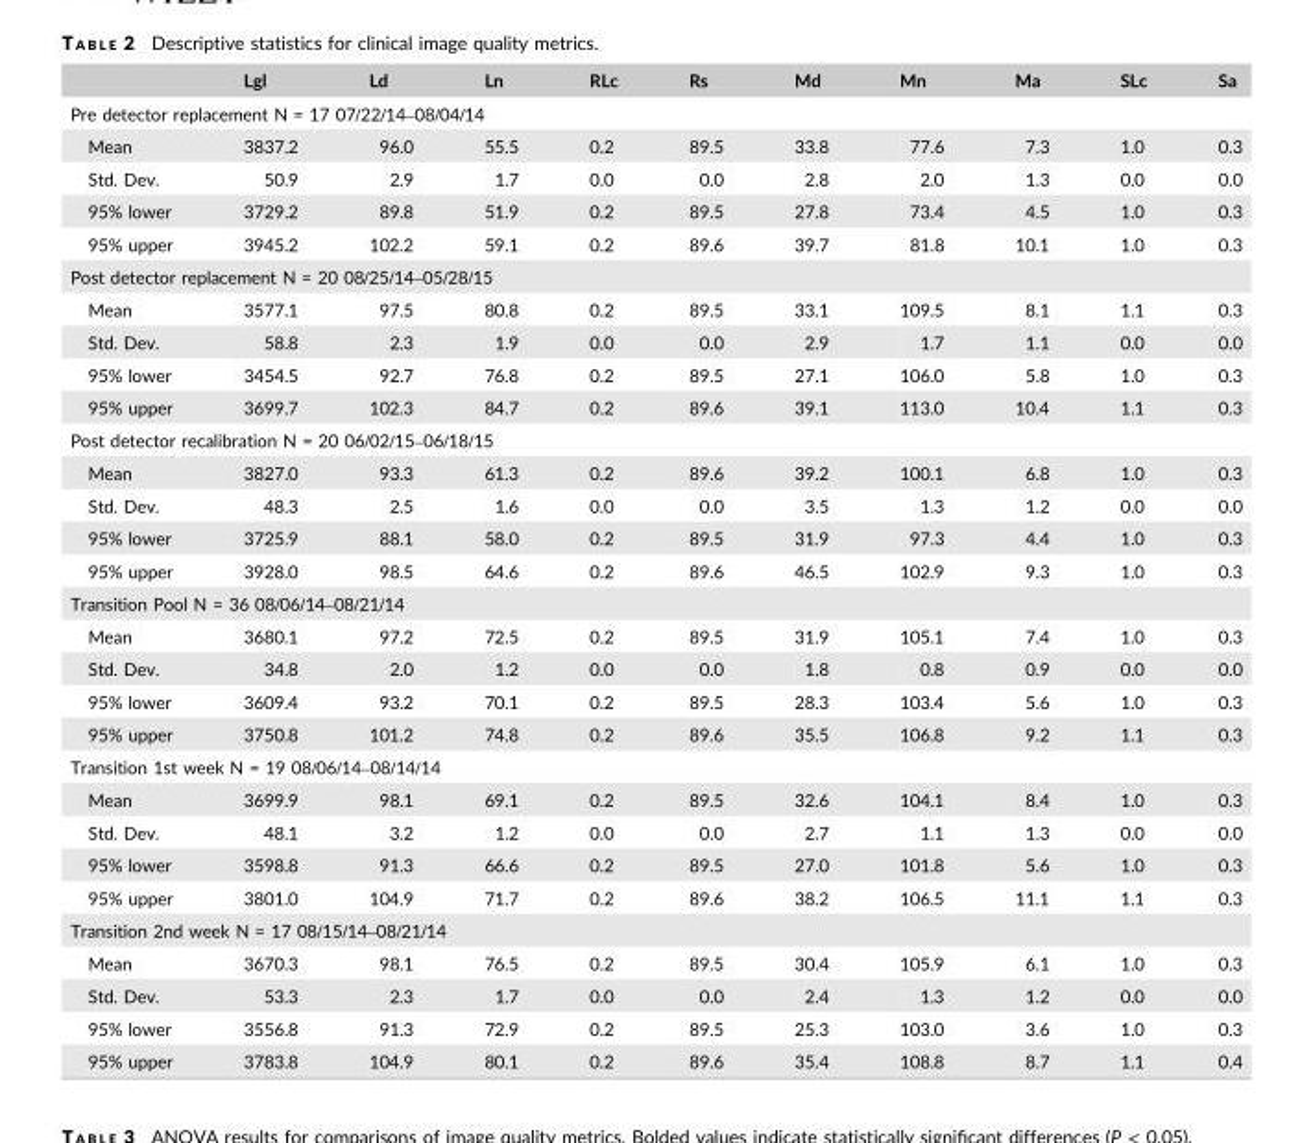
<table><thead><tr><td></td><td>Lgl</td><td>Ld</td><td>Ln</td><td>RLc</td><td>Rs</td><td>Md</td><td>Mn</td><td>Ma</td><td>SLc</td><td>Sa</td></tr></thead><tbody><tr><td colspan="11">Pre detector replacement N = 17 07/22/14–08/04/14</td></tr><tr><td>Mean</td><td>3837.2</td><td>96.0</td><td>55.5</td><td>0.2</td><td>89.5</td><td>33.8</td><td>77.6</td><td>7.3</td><td>1.0</td><td>0.3</td></tr><tr><td>Std. Dev.</td><td>50.9</td><td>2.9</td><td>1.7</td><td>0.0</td><td>0.0</td><td>2.8</td><td>2.0</td><td>1.3</td><td>0.0</td><td>0.0</td></tr><tr><td>95% lower</td><td>3729.2</td><td>89.8</td><td>51.9</td><td>0.2</td><td>89.5</td><td>27.8</td><td>73.4</td><td>4.5</td><td>1.0</td><td>0.3</td></tr><tr><td>95% upper</td><td>3945.2</td><td>102.2</td><td>59.1</td><td>0.2</td><td>89.6</td><td>39.7</td><td>81.8</td><td>10.1</td><td>1.0</td><td>0.3</td></tr><tr><td colspan="11">Post detector replacement N = 20 08/25/14–05/28/15</td></tr><tr><td>Mean</td><td>3577.1</td><td>97.5</td><td>80.8</td><td>0.2</td><td>89.5</td><td>33.1</td><td>109.5</td><td>8.1</td><td>1.1</td><td>0.3</td></tr><tr><td>Std. Dev.</td><td>58.8</td><td>2.3</td><td>1.9</td><td>0.0</td><td>0.0</td><td>2.9</td><td>1.7</td><td>1.1</td><td>0.0</td><td>0.0</td></tr><tr><td>95% lower</td><td>3454.5</td><td>92.7</td><td>76.8</td><td>0.2</td><td>89.5</td><td>27.1</td><td>106.0</td><td>5.8</td><td>1.0</td><td>0.3</td></tr><tr><td>95% upper</td><td>3699.7</td><td>102.3</td><td>84.7</td><td>0.2</td><td>89.6</td><td>39.1</td><td>113.0</td><td>10.4</td><td>1.1</td><td>0.3</td></tr><tr><td colspan="11">Post detector recalibration N = 20 06/02/15–06/18/15</td></tr><tr><td>Mean</td><td>3827.0</td><td>93.3</td><td>61.3</td><td>0.2</td><td>89.6</td><td>39.2</td><td>100.1</td><td>6.8</td><td>1.0</td><td>0.3</td></tr><tr><td>Std. Dev.</td><td>48.3</td><td>2.5</td><td>1.6</td><td>0.0</td><td>0.0</td><td>3.5</td><td>1.3</td><td>1.2</td><td>0.0</td><td>0.0</td></tr><tr><td>95% lower</td><td>3725.9</td><td>88.1</td><td>58.0</td><td>0.2</td><td>89.5</td><td>31.9</td><td>97.3</td><td>4.4</td><td>1.0</td><td>0.3</td></tr><tr><td>95% upper</td><td>3928.0</td><td>98.5</td><td>64.6</td><td>0.2</td><td>89.6</td><td>46.5</td><td>102.9</td><td>9.3</td><td>1.0</td><td>0.3</td></tr><tr><td colspan="11">Transition Pool N = 36 08/06/14–08/21/14</td></tr><tr><td>Mean</td><td>3680.1</td><td>97.2</td><td>72.5</td><td>0.2</td><td>89.5</td><td>31.9</td><td>105.1</td><td>7.4</td><td>1.0</td><td>0.3</td></tr><tr><td>Std. Dev.</td><td>34.8</td><td>2.0</td><td>1.2</td><td>0.0</td><td>0.0</td><td>1.8</td><td>0.8</td><td>0.9</td><td>0.0</td><td>0.0</td></tr><tr><td>95% lower</td><td>3609.4</td><td>93.2</td><td>70.1</td><td>0.2</td><td>89.5</td><td>28.3</td><td>103.4</td><td>5.6</td><td>1.0</td><td>0.3</td></tr><tr><td>95% upper</td><td>3750.8</td><td>101.2</td><td>74.8</td><td>0.2</td><td>89.6</td><td>35.5</td><td>106.8</td><td>9.2</td><td>1.1</td><td>0.3</td></tr><tr><td colspan="11">Transition 1st week N = 19 08/06/14–08/14/14</td></tr><tr><td>Mean</td><td>3699.9</td><td>98.1</td><td>69.1</td><td>0.2</td><td>89.5</td><td>32.6</td><td>104.1</td><td>8.4</td><td>1.0</td><td>0.3</td></tr><tr><td>Std. Dev.</td><td>48.1</td><td>3.2</td><td>1.2</td><td>0.0</td><td>0.0</td><td>2.7</td><td>1.1</td><td>1.3</td><td>0.0</td><td>0.0</td></tr><tr><td>95% lower</td><td>3598.8</td><td>91.3</td><td>66.6</td><td>0.2</td><td>89.5</td><td>27.0</td><td>101.8</td><td>5.6</td><td>1.0</td><td>0.3</td></tr><tr><td>95% upper</td><td>3801.0</td><td>104.9</td><td>71.7</td><td>0.2</td><td>89.6</td><td>38.2</td><td>106.5</td><td>11.1</td><td>1.1</td><td>0.3</td></tr><tr><td colspan="11">Transition 2nd week N = 17 08/15/14–08/21/14</td></tr><tr><td>Mean</td><td>3670.3</td><td>98.1</td><td>76.5</td><td>0.2</td><td>89.5</td><td>30.4</td><td>105.9</td><td>6.1</td><td>1.0</td><td>0.3</td></tr><tr><td>Std. Dev.</td><td>53.3</td><td>2.3</td><td>1.7</td><td>0.0</td><td>0.0</td><td>2.4</td><td>1.3</td><td>1.2</td><td>0.0</td><td>0.0</td></tr><tr><td>95% lower</td><td>3556.8</td><td>91.3</td><td>72.9</td><td>0.2</td><td>89.5</td><td>25.3</td><td>103.0</td><td>3.6</td><td>1.0</td><td>0.3</td></tr><tr><td>95% upper</td><td>3783.8</td><td>104.9</td><td>80.1</td><td>0.2</td><td>89.6</td><td>35.4</td><td>108.8</td><td>8.7</td><td>1.1</td><td>0.4</td></tr></tbody></table>